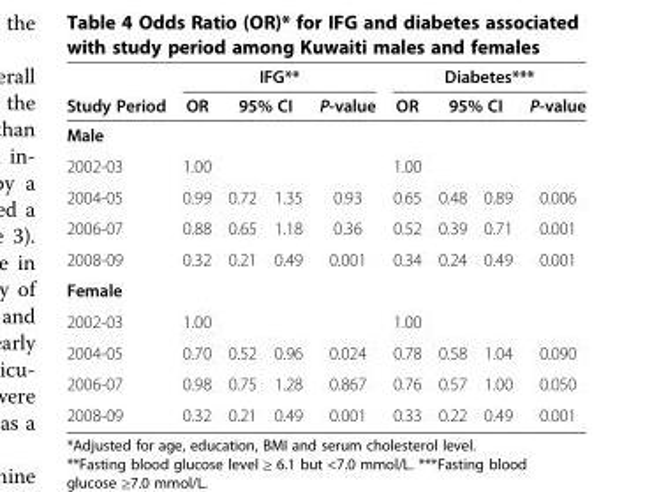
<table><thead><tr><td rowspan="3">Study Period Male</td><td colspan="4">IFG**</td><td colspan="4">Diabetes***</td></tr><tr><td rowspan="2">OR</td><td colspan="2">95% CI</td><td rowspan="2">P-value</td><td rowspan="2">OR</td><td colspan="2">95% CI</td><td rowspan="2">P-value</td></tr><tr><td></td><td></td><td></td><td></td></tr></thead><tbody><tr><td>2002-03</td><td>1.00</td><td></td><td></td><td></td><td>1.00</td><td></td><td></td><td></td></tr><tr><td>2004-05</td><td>0.99</td><td>0.72</td><td>1.35</td><td>0.93</td><td>0.65</td><td>0.48</td><td>0.89</td><td>0.006</td></tr><tr><td>2006-07</td><td>0.88</td><td>0.65</td><td>1.18</td><td>0.36</td><td>0.52</td><td>0.39</td><td>0.71</td><td>0.001</td></tr><tr><td>2008-09</td><td>0.32</td><td>0.21</td><td>0.49</td><td>0.001</td><td>0.34</td><td>0.24</td><td>0.49</td><td>0.001</td></tr><tr><td colspan="9">Female</td></tr><tr><td>2002-03</td><td>1.00</td><td></td><td></td><td></td><td>1.00</td><td></td><td></td><td></td></tr><tr><td>2004-05</td><td>0.70</td><td>0.52</td><td>0.96</td><td>0.024</td><td>0.78</td><td>0.58</td><td>1.04</td><td>0.090</td></tr><tr><td>2006-07</td><td>0.98</td><td>0.75</td><td>1.28</td><td>0.867</td><td>0.76</td><td>0.57</td><td>1.00</td><td>0.050</td></tr><tr><td>2008-09</td><td>0.32</td><td>0.21</td><td>0.49</td><td>0.001</td><td>0.33</td><td>0.22</td><td>0.49</td><td>0.001</td></tr></tbody></table>